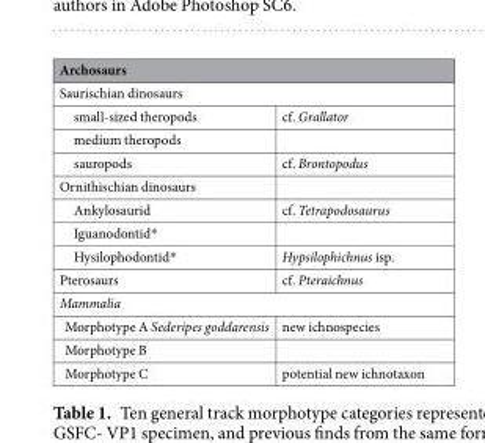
<table><thead><tr><td rowspan="2" colspan="2">Archosaurs Saurischian dinosaurs</td></tr><tr></tr><tr><td>small-sized theropods</td><td>cf. Grallator</td></tr></thead><tbody><tr><td colspan="2">medium theropods</td></tr><tr><td>sauropods</td><td>cf. Brontopodus</td></tr><tr><td colspan="2">Ornithischian dinosaurs</td></tr><tr><td>Ankylosaurid</td><td>cf. Tetrapodosaurus</td></tr><tr><td colspan="2">Iguanodontid*</td></tr><tr><td>Hysilophodontid*</td><td>Hypsilophichnus isp.</td></tr><tr><td>Pterosaurs</td><td>cf. Pteraichnus</td></tr><tr><td colspan="2">Mammalia</td></tr><tr><td>Morphotype A Sederipes goddarensis</td><td>new ichnospecies</td></tr><tr><td colspan="2">Morphotype B</td></tr><tr><td>Morphotype C</td><td>potential new ichnotaxon</td></tr></tbody></table>